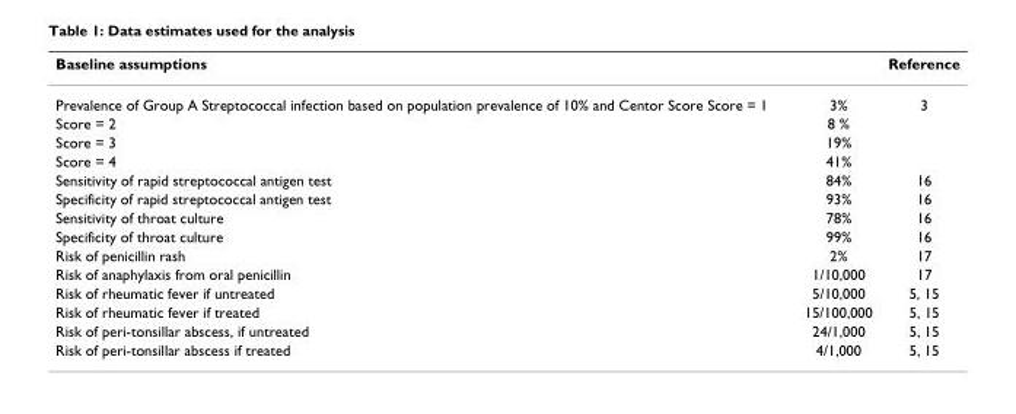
<table><thead><tr><td>Baseline assumptions</td><td></td><td>Reference</td></tr></thead><tbody><tr><td>Prevalence of Group A Streptococcal infection based on population prevalence of 10% and Centor Score Score = 1</td><td>3%</td><td>3</td></tr><tr><td>Score = 2</td><td>8 %</td><td></td></tr><tr><td>Score = 3</td><td>19%</td><td></td></tr><tr><td>Score = 4</td><td>41%</td><td></td></tr><tr><td>Sensitivity of rapid streptococcal antigen test</td><td>84%</td><td>16</td></tr><tr><td>Specificity of rapid streptococcal antigen test</td><td>93%</td><td>16</td></tr><tr><td>Sensitivity of throat culture</td><td>78%</td><td>16</td></tr><tr><td>Specificity of throat culture</td><td>99%</td><td>16</td></tr><tr><td>Risk of penicillin rash</td><td>2%</td><td>17</td></tr><tr><td>Risk of anaphylaxis from oral penicillin</td><td>1/10,000</td><td>17</td></tr><tr><td>Risk of rheumatic fever if untreated</td><td>5/10,000</td><td>5, 15</td></tr><tr><td>Risk of rheumatic fever if treated</td><td>15/100,000</td><td>5, 15</td></tr><tr><td>Risk of peri-tonsillar abscess, if untreated</td><td>24/1,000</td><td>5, 15</td></tr><tr><td>Risk of peri-tonsillar abscess if treated</td><td>4/1,000</td><td>5, 15</td></tr></tbody></table>